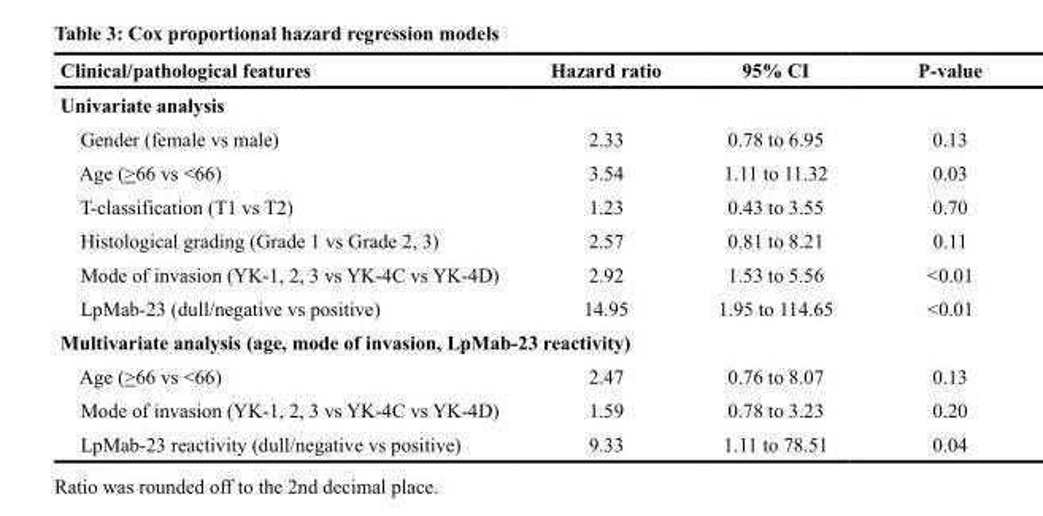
<table><thead><tr><td>Clinical/pathological features</td><td>Hazard ratio</td><td>95% CI</td><td>P-value</td></tr></thead><tbody><tr><td colspan="4">Univariate analysis</td></tr><tr><td>Gender (female vs male)</td><td>2.33</td><td>0.78 to 6.95</td><td>0.13</td></tr><tr><td>Age (&gt;66 vs &lt;66)</td><td>3.54</td><td>1.11 to 11.32</td><td>0.03</td></tr><tr><td>T-classification (T1 vs T2)</td><td>1.23</td><td>0.43 to 3.55</td><td>0.70</td></tr><tr><td>Histological grading (Grade 1 vs Grade 2, 3)</td><td>2.57</td><td>0.81 to 8.21</td><td>0.11</td></tr><tr><td>Mode of invasion (YK-1, 2, 3 vs YK-4C vs YK-4D)</td><td>2.92</td><td>1.53 to 5.56</td><td>&lt;0.01</td></tr><tr><td>LpMab-23 (dull/negative vs positive)</td><td>14.95</td><td>1.95 to 114.65</td><td>&lt;0.01</td></tr><tr><td colspan="4">Multivariate analysis (age, mode of invasion, LpMab-23 reactivity)</td></tr><tr><td>Age (&gt;66 vs &lt;66)</td><td>2.47</td><td>0.76 to 8.07</td><td>0.13</td></tr><tr><td>Mode of invasion (YK-1, 2, 3 vs YK-4C vs YK-4D)</td><td>1.59</td><td>0.78 to 3.23</td><td>0.20</td></tr><tr><td>LpMab-23 reactivity (dull/negative vs positive)</td><td>9.33</td><td>1.11 to 78.51</td><td>0.04</td></tr></tbody></table>